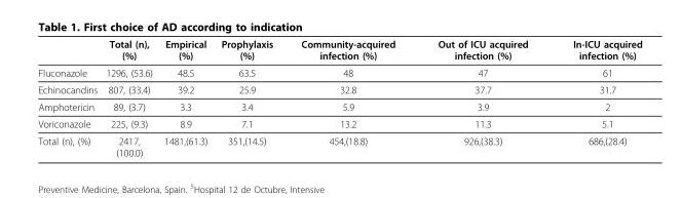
<table><thead><tr><td></td><td>Total (n), (%)</td><td>Empirical (%)</td><td>Prophylaxis (%)</td><td>Community-acquired infection (%)</td><td>Out of ICU acquired infection (%)</td><td>In-ICU acquired infection (%)</td></tr></thead><tbody><tr><td>Fluconazole</td><td>1296, (53.6)</td><td>48.5</td><td>63.5</td><td>48</td><td>47</td><td>61</td></tr><tr><td>Echinocandins</td><td>807, (33.4)</td><td>39.2</td><td>25.9</td><td>32.8</td><td>37.7</td><td>31.7</td></tr><tr><td>Amphotericin</td><td>89, (3.7)</td><td>3.3</td><td>3.4</td><td>5.9</td><td>3.9</td><td>2</td></tr><tr><td>Voriconazole</td><td>225, (9.3)</td><td>8.9</td><td>7.1</td><td>13.2</td><td>11.3</td><td>5.1</td></tr><tr><td>Total (n), (%)</td><td>2417, (100.0)</td><td>1481,(61.3)</td><td>351,(14.5)</td><td>454,(18.8)</td><td>926,(38.3)</td><td>686,(28.4)</td></tr></tbody></table>